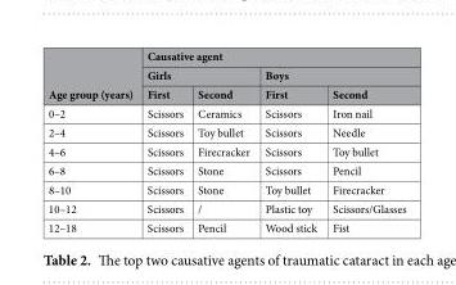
<table><thead><tr><td rowspan="3">Age group (years)</td><td colspan="4">Causative agent</td></tr><tr><td colspan="2">Girls</td><td colspan="2">Boys</td></tr><tr><td>First</td><td>Second</td><td>First</td><td>Second</td></tr></thead><tbody><tr><td>0–2</td><td>Scissors</td><td>Ceramics</td><td>Scissors</td><td>Iron nail</td></tr><tr><td>2–4</td><td>Scissors</td><td>Toy bullet</td><td>Scissors</td><td>Needle</td></tr><tr><td>4–6</td><td>Scissors</td><td>Firecracker</td><td>Scissors</td><td>Toy bullet</td></tr><tr><td>6–8</td><td>Scissors</td><td>Stone</td><td>Scissors</td><td>Pencil</td></tr><tr><td>8–10</td><td>Scissors</td><td>Stone</td><td>Toy bullet</td><td>Firecracker</td></tr><tr><td>10–12</td><td>Scissors</td><td>/</td><td>Plastic toy</td><td>Scissors/Glasses</td></tr><tr><td>12–18</td><td>Scissors</td><td>Pencil</td><td>Wood stick</td><td>Fist</td></tr></tbody></table>